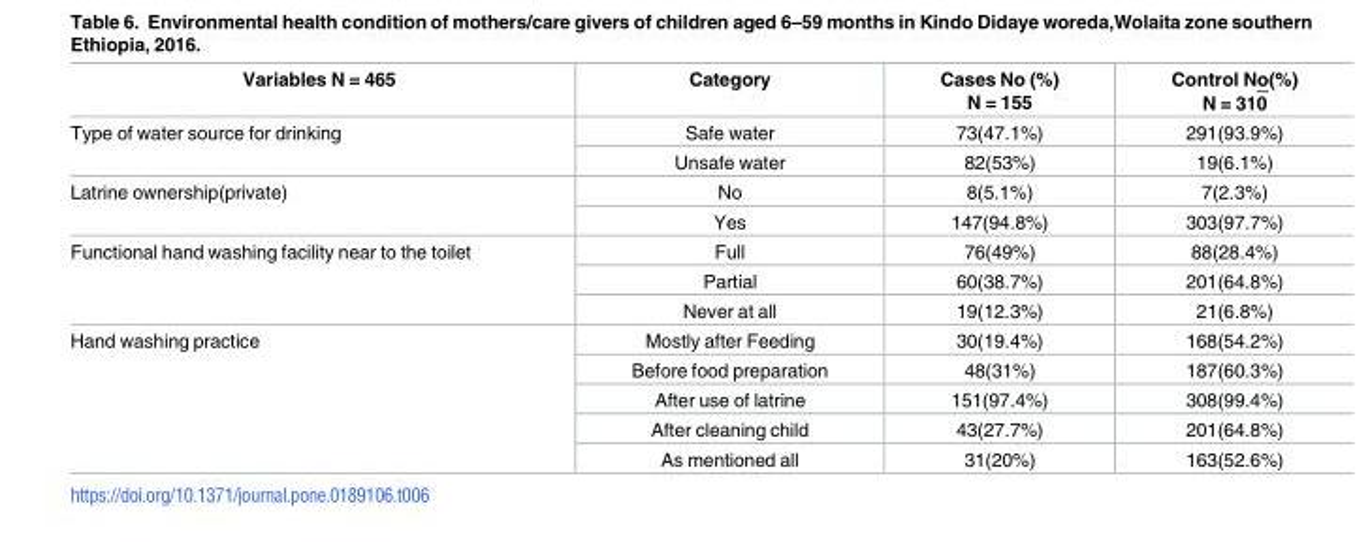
<table><thead><tr><td>Variables N = 465</td><td>Category</td><td>Cases No (%) N = 155</td><td>Control No(%) N = 310</td></tr></thead><tbody><tr><td rowspan="2">Type of water source for drinking</td><td>Safe water</td><td>73(47.1%)</td><td>291(93.9%)</td></tr><tr><td>Unsafe water</td><td>82(53%)</td><td>19(6.1%)</td></tr><tr><td rowspan="2">Latrine ownership(private)</td><td>No</td><td>8(5.1%)</td><td>7(2.3%)</td></tr><tr><td>Yes</td><td>147(94.8%)</td><td>303(97.7%)</td></tr><tr><td rowspan="3">Functional hand washing facility near to the toilet</td><td>Full</td><td>76(49%)</td><td>88(28.4%)</td></tr><tr><td>Partial</td><td>60(38.7%)</td><td>201(64.8%)</td></tr><tr><td>Never at all</td><td>19(12.3%)</td><td>21(6.8%)</td></tr><tr><td rowspan="5">Hand washing practice</td><td>Mostly after Feeding</td><td>30(19.4%)</td><td>168(54.2%)</td></tr><tr><td>Before food preparation</td><td>48(31%)</td><td>187(60.3%)</td></tr><tr><td>After use of latrine</td><td>151(97.4%)</td><td>308(99.4%)</td></tr><tr><td>After cleaning child</td><td>43(27.7%)</td><td>201(64.8%)</td></tr><tr><td>As mentioned all</td><td>31(20%)</td><td>163(52.6%)</td></tr></tbody></table>